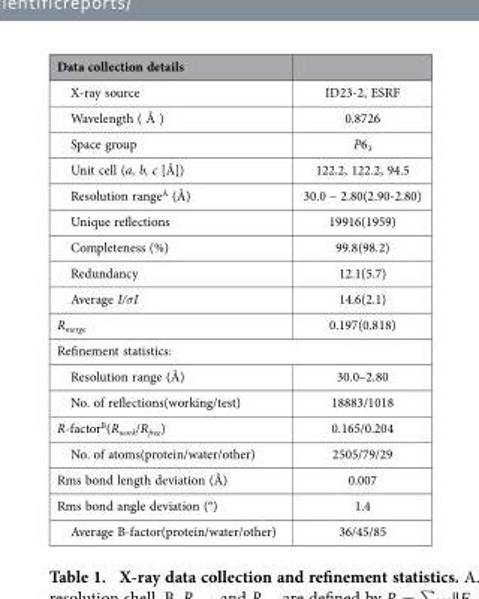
<table><thead><tr><td>Data collection details</td><td></td></tr></thead><tbody><tr><td>X-ray source</td><td>ID23-2, ESRF</td></tr><tr><td>Wavelength ( Å )</td><td>0.8726</td></tr><tr><td>Space group</td><td>P6<sub>3</sub></td></tr><tr><td>Unit cell (a, b, c [Å])</td><td>122.2, 122.2, 94.5</td></tr><tr><td>Resolution range<sup>A</sup> (Å)</td><td>30.0 – 2.80(2.90-2.80)</td></tr><tr><td>Unique reflections</td><td>19916(1959)</td></tr><tr><td>Completeness (%)</td><td>99.8(98.2)</td></tr><tr><td>Redundancy</td><td>12.1(5.7)</td></tr><tr><td>Average I/σI</td><td>14.6(2.1)</td></tr><tr><td>R<sub>merge</sub></td><td>0.197(0.818)</td></tr><tr><td colspan="2">Refinement statistics:</td></tr><tr><td>Resolution range (Å)</td><td>30.0–2.80</td></tr><tr><td>No. of reflections(working/test)</td><td>18883/1018</td></tr><tr><td>R-factor<sup>B</sup>(R<sub>work</sub>/R<sub>free</sub>)</td><td>0.165/0.204</td></tr><tr><td>No. of atoms(protein/water/other)</td><td>2505/79/29</td></tr><tr><td>Rms bond length deviation (Å)</td><td>0.007</td></tr><tr><td>Rms bond angle deviation (°)</td><td>1.4</td></tr><tr><td>Average B-factor(protein/water/other)</td><td>36/45/85</td></tr></tbody></table>